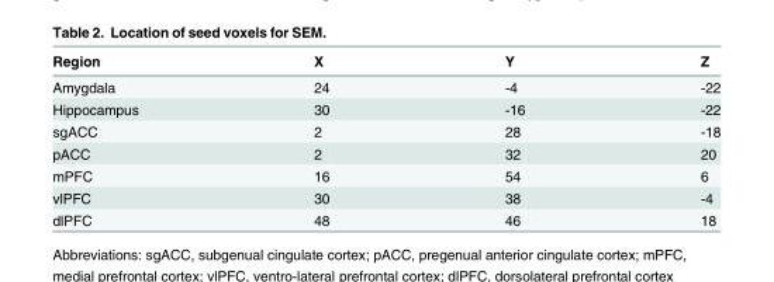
<table><thead><tr><td>Region</td><td>X</td><td>Y</td><td>Z</td></tr></thead><tbody><tr><td>Amygdala</td><td>24</td><td>-4</td><td>-22</td></tr><tr><td>Hippocampus</td><td>30</td><td>-16</td><td>-22</td></tr><tr><td>sgACC</td><td>2</td><td>28</td><td>-18</td></tr><tr><td>pACC</td><td>2</td><td>32</td><td>20</td></tr><tr><td>mPFC</td><td>16</td><td>54</td><td>6</td></tr><tr><td>vlPFC</td><td>30</td><td>38</td><td>-4</td></tr><tr><td>dlPFC</td><td>48</td><td>46</td><td>18</td></tr></tbody></table>